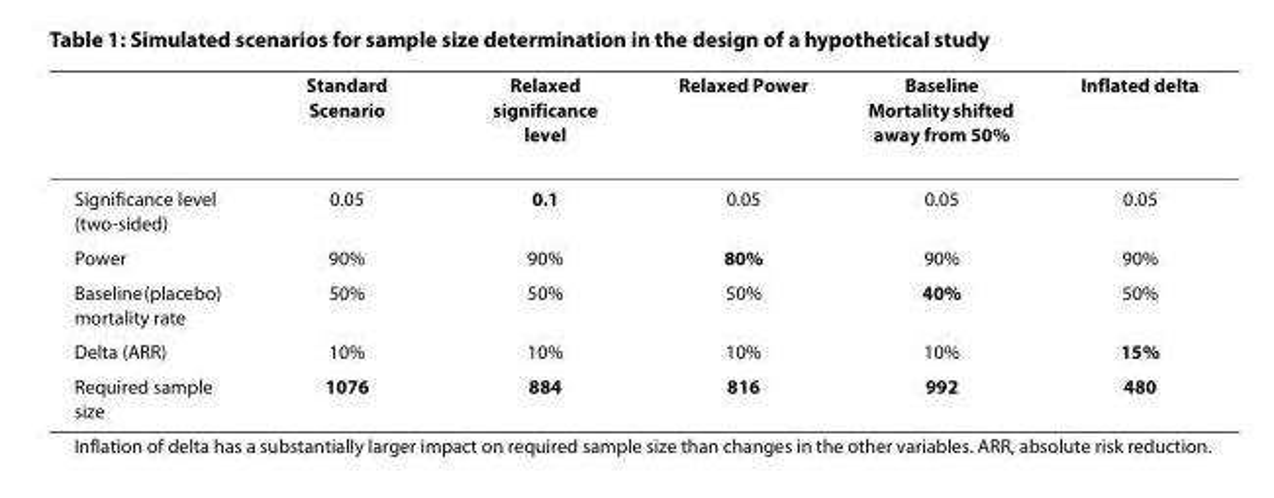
<table><thead><tr><td></td><td>Standard Scenario</td><td>Relaxed significance level</td><td>Relaxed Power</td><td>Baseline Mortality shifted away from 50%</td><td>Inflated delta</td></tr></thead><tbody><tr><td>Significance level (two-sided)</td><td>0.05</td><td>0.1</td><td>0.05</td><td>0.05</td><td>0.05</td></tr><tr><td>Power</td><td>90%</td><td>90%</td><td>80%</td><td>90%</td><td>90%</td></tr><tr><td>Baseline (placebo) mortality rate</td><td>50%</td><td>50%</td><td>50%</td><td>40%</td><td>50%</td></tr><tr><td>Delta (ARR)</td><td>10%</td><td>10%</td><td>10%</td><td>10%</td><td>15%</td></tr><tr><td>Required sample size</td><td>1076</td><td>884</td><td>816</td><td>992</td><td>480</td></tr></tbody></table>